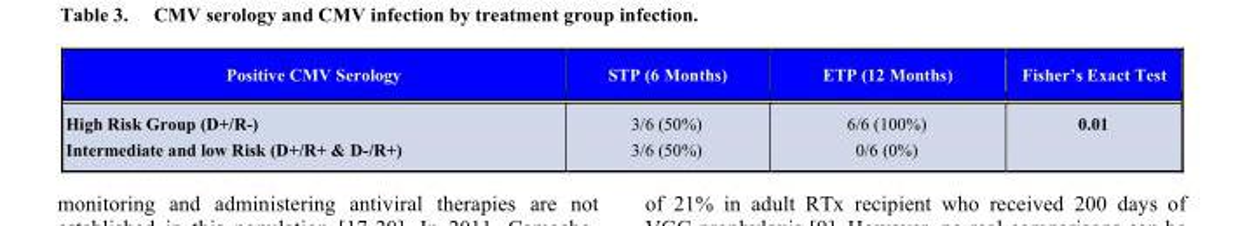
<table><thead><tr><td>Positive CMV Serology</td><td>STP (6 Months)</td><td>ETP (12 Months)</td><td>Fisher’s Exact Test</td></tr></thead><tbody><tr><td>High Risk Group (D+/R-) Intermediate and low Risk (D+/R+ &amp; D-/R+)</td><td>3/6 (50%) 3/6 (50%)</td><td>6/6 (100%) 0/6 (0%)</td><td>0.01</td></tr></tbody></table>